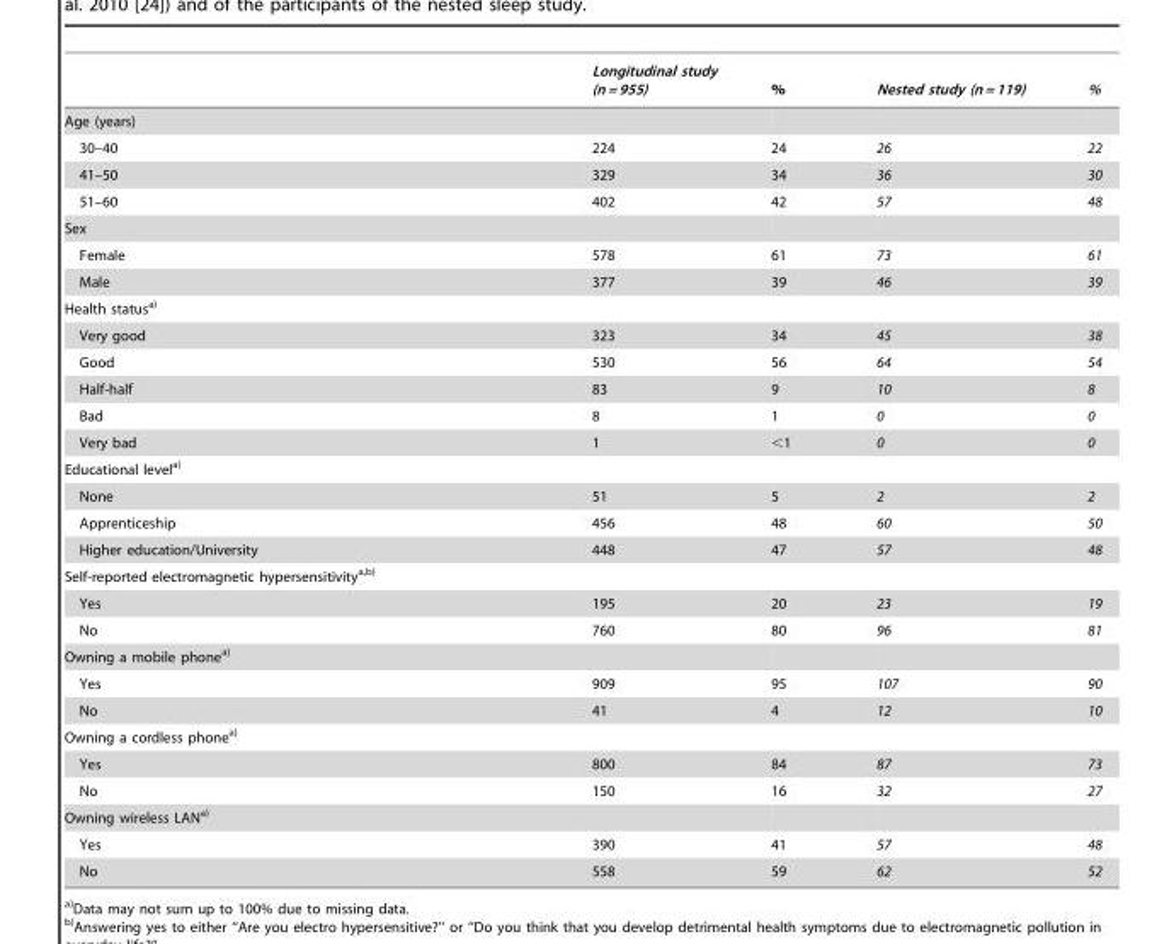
<table><thead><tr><td></td><td>Longitudinal study (n = 955)</td><td>%</td><td>Nested study (n = 119)</td><td>%</td></tr></thead><tbody><tr><td colspan="5">Age (years)</td></tr><tr><td>30–40</td><td>224</td><td>24</td><td>26</td><td>22</td></tr><tr><td>41–50</td><td>329</td><td>34</td><td>36</td><td>30</td></tr><tr><td>51–60</td><td>402</td><td>42</td><td>57</td><td>48</td></tr><tr><td colspan="5">Sex</td></tr><tr><td>Female</td><td>578</td><td>61</td><td>73</td><td>61</td></tr><tr><td>Male</td><td>377</td><td>39</td><td>46</td><td>39</td></tr><tr><td colspan="5">Health statusa)</td></tr><tr><td>Very good</td><td>323</td><td>34</td><td>45</td><td>38</td></tr><tr><td>Good</td><td>530</td><td>56</td><td>64</td><td>54</td></tr><tr><td>Half-half</td><td>83</td><td>9</td><td>10</td><td>8</td></tr><tr><td>Bad</td><td>8</td><td>1</td><td>0</td><td>0</td></tr><tr><td>Very bad</td><td>1</td><td>&lt;1</td><td>0</td><td>0</td></tr><tr><td colspan="5">Educational levela)</td></tr><tr><td>None</td><td>51</td><td>5</td><td>2</td><td>2</td></tr><tr><td>Apprenticeship</td><td>456</td><td>48</td><td>60</td><td>50</td></tr><tr><td>Higher education/University</td><td>448</td><td>47</td><td>57</td><td>48</td></tr><tr><td colspan="5">Self-reported electromagnetic hypersensitivity<sup>a,</sup>b)</td></tr><tr><td>Yes</td><td>195</td><td>20</td><td>23</td><td>19</td></tr><tr><td>No</td><td>760</td><td>80</td><td>96</td><td>81</td></tr><tr><td colspan="5">Owning a mobile phonea)</td></tr><tr><td>Yes</td><td>909</td><td>95</td><td>107</td><td>90</td></tr><tr><td>No</td><td>41</td><td>4</td><td>12</td><td>10</td></tr><tr><td colspan="5">Owning a cordless phonea)</td></tr><tr><td>Yes</td><td>800</td><td>84</td><td>87</td><td>73</td></tr><tr><td>No</td><td>150</td><td>16</td><td>32</td><td>27</td></tr><tr><td colspan="5">Owning wireless LANa)</td></tr><tr><td>Yes</td><td>390</td><td>41</td><td>57</td><td>48</td></tr><tr><td>No</td><td>558</td><td>59</td><td>62</td><td>52</td></tr></tbody></table>